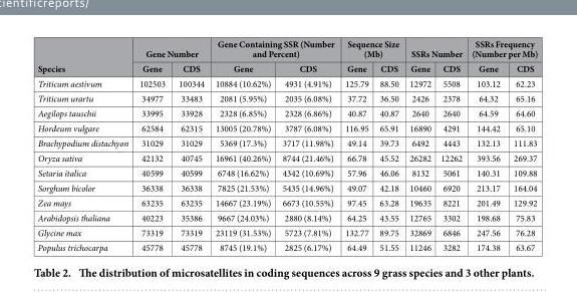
<table><thead><tr><td rowspan="2">Species</td><td colspan="2">Gene Number</td><td colspan="2">Gene Containing SSR (Number and Percent)</td><td colspan="2">Sequence Size (Mb)</td><td colspan="2">SSRs Number</td><td colspan="2">SSRs Frequency (Number per Mb)</td></tr><tr><td>Gene</td><td>CDS</td><td>Gene</td><td>CDS</td><td>Gene</td><td>CDS</td><td>Gene</td><td>CDS</td><td>Gene</td><td>CDS</td></tr></thead><tbody><tr><td>Triticum aestivum</td><td>102503</td><td>100344</td><td>10884 (10.62%)</td><td>4931 (4.91%)</td><td>125.79</td><td>88.50</td><td>12972</td><td>5508</td><td>103.12</td><td>62.23</td></tr><tr><td>Triticum urartu</td><td>34977</td><td>33483</td><td>2081 (5.95%)</td><td>2035 (6.08%)</td><td>37.72</td><td>36.50</td><td>2426</td><td>2378</td><td>64.32</td><td>65.16</td></tr><tr><td>Aegilops tauschii</td><td>33995</td><td>33928</td><td>2328 (6.85%)</td><td>2328 (6.86%)</td><td>40.87</td><td>40.87</td><td>2640</td><td>2640</td><td>64.59</td><td>64.60</td></tr><tr><td>Hordeum vulgare</td><td>62584</td><td>62315</td><td>13005 (20.78%)</td><td>3787 (6.08%)</td><td>116.95</td><td>65.91</td><td>16890</td><td>4291</td><td>144.42</td><td>65.10</td></tr><tr><td>Brachypodium distachyon</td><td>31029</td><td>31029</td><td>5369 (17.3%)</td><td>3717 (11.98%)</td><td>49.14</td><td>39.73</td><td>6492</td><td>4443</td><td>132.13</td><td>111.83</td></tr><tr><td>Oryza sativa</td><td>42132</td><td>40745</td><td>16961 (40.26%)</td><td>8744 (21.46%)</td><td>66.78</td><td>45.52</td><td>26282</td><td>12262</td><td>393.56</td><td>269.37</td></tr><tr><td>Setaria italica</td><td>40599</td><td>40599</td><td>6748 (16.62%)</td><td>4342 (10.69%)</td><td>57.96</td><td>46.06</td><td>8132</td><td>5061</td><td>140.31</td><td>109.88</td></tr><tr><td>Sorghum bicolor</td><td>36338</td><td>36338</td><td>7825 (21.53%)</td><td>5435 (14.96%)</td><td>49.07</td><td>42.18</td><td>10460</td><td>6920</td><td>213.17</td><td>164.04</td></tr><tr><td>Zea mays</td><td>63235</td><td>63235</td><td>14667 (23.19%)</td><td>6673 (10.55%)</td><td>97.45</td><td>63.28</td><td>19635</td><td>8221</td><td>201.49</td><td>129.92</td></tr><tr><td>Arabidopsis thaliana</td><td>40223</td><td>35386</td><td>9667 (24.03%)</td><td>2880 (8.14%)</td><td>64.25</td><td>43.55</td><td>12765</td><td>3302</td><td>198.68</td><td>75.83</td></tr><tr><td>Glycine max</td><td>73319</td><td>73319</td><td>23119 (31.53%)</td><td>5723 (7.81%)</td><td>132.77</td><td>89.75</td><td>32869</td><td>6846</td><td>247.56</td><td>76.28</td></tr><tr><td>Populus trichocarpa</td><td>45778</td><td>45778</td><td>8745 (19.1%)</td><td>2825 (6.17%)</td><td>64.49</td><td>51.55</td><td>11246</td><td>3282</td><td>174.38</td><td>63.67</td></tr></tbody></table>